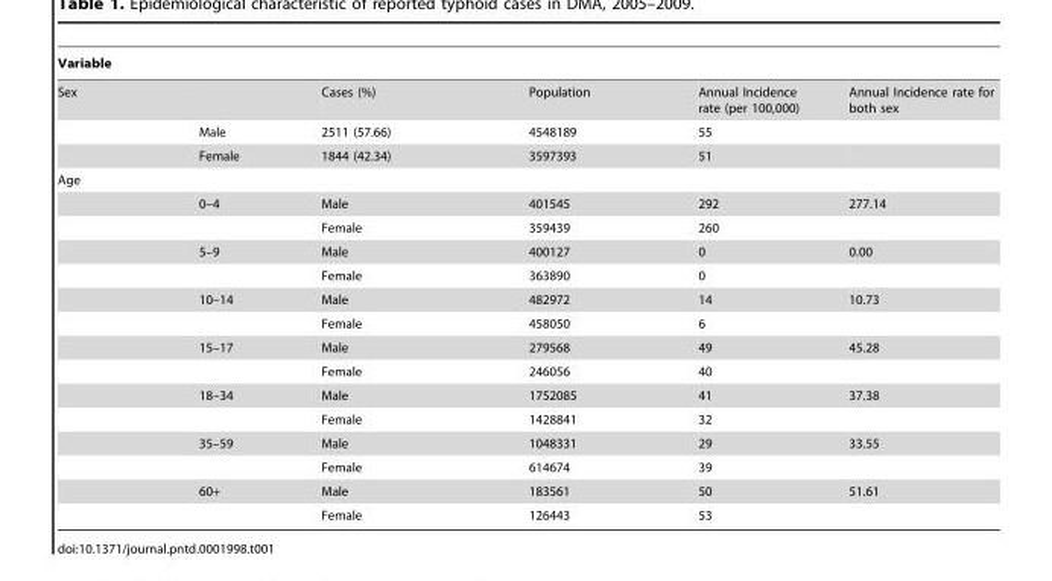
<table><thead><tr><td>Variable</td><td></td><td></td><td></td><td></td><td></td></tr></thead><tbody><tr><td rowspan="3">Sex</td><td></td><td>Cases (%)</td><td>Population</td><td>Annual Incidence rate (per 100,000)</td><td>Annual Incidence rate for both sex</td></tr><tr><td>Male</td><td>2511 (57.66)</td><td>4548189</td><td>55</td><td></td></tr><tr><td>Female</td><td>1844 (42.34)</td><td>3597393</td><td>51</td><td></td></tr><tr><td colspan="6">Age</td></tr><tr><td></td><td>0–4</td><td>Male</td><td>401545</td><td>292</td><td>277.14</td></tr><tr><td></td><td></td><td>Female</td><td>359439</td><td>260</td><td></td></tr><tr><td></td><td>5–9</td><td>Male</td><td>400127</td><td>0</td><td>0.00</td></tr><tr><td></td><td></td><td>Female</td><td>363890</td><td>0</td><td></td></tr><tr><td></td><td>10–14</td><td>Male</td><td>482972</td><td>14</td><td>10.73</td></tr><tr><td></td><td></td><td>Female</td><td>458050</td><td>6</td><td></td></tr><tr><td></td><td>15–17</td><td>Male</td><td>279568</td><td>49</td><td>45.28</td></tr><tr><td></td><td></td><td>Female</td><td>246056</td><td>40</td><td></td></tr><tr><td></td><td>18–34</td><td>Male</td><td>1752085</td><td>41</td><td>37.38</td></tr><tr><td></td><td></td><td>Female</td><td>1428841</td><td>32</td><td></td></tr><tr><td></td><td>35–59</td><td>Male</td><td>1048331</td><td>29</td><td>33.55</td></tr><tr><td></td><td></td><td>Female</td><td>614674</td><td>39</td><td></td></tr><tr><td></td><td>60+</td><td>Male</td><td>183561</td><td>50</td><td>51.61</td></tr><tr><td></td><td></td><td>Female</td><td>126443</td><td>53</td><td></td></tr></tbody></table>